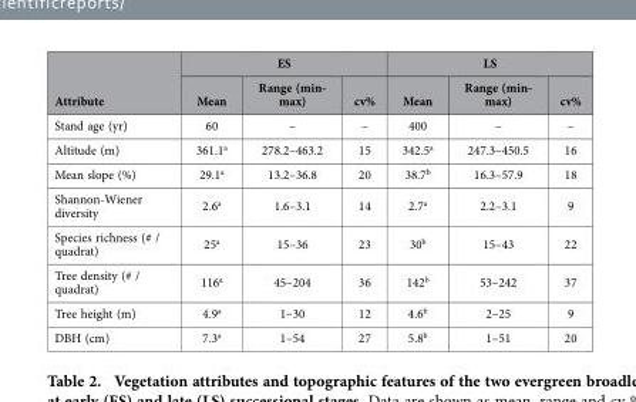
<table><thead><tr><td rowspan="2">Attribute</td><td colspan="3">ES</td><td colspan="3">LS</td></tr><tr><td>Mean</td><td>Range (min- max)</td><td>cv%</td><td>Mean</td><td>Range (min- max)</td><td>cv%</td></tr></thead><tbody><tr><td>Stand age (yr)</td><td>60</td><td>–</td><td>–</td><td>400</td><td>–</td><td>–</td></tr><tr><td>Altitude (m)</td><td>361.1<sup>a</sup></td><td>278.2–463.2</td><td>15</td><td>342.5<sup>a</sup></td><td>247.3–450.5</td><td>16</td></tr><tr><td>Mean slope (%)</td><td>29.1<sup>a</sup></td><td>13.2–36.8</td><td>20</td><td>38.7<sup>b</sup></td><td>16.3–57.9</td><td>18</td></tr><tr><td>Shannon-Wiener diversity</td><td>2.6<sup>a</sup></td><td>1.6–3.1</td><td>14</td><td>2.7<sup>a</sup></td><td>2.2–3.1</td><td>9</td></tr><tr><td>Species richness (# / quadrat)</td><td>25<sup>a</sup></td><td>15–36</td><td>23</td><td>30<sup>b</sup></td><td>15–43</td><td>22</td></tr><tr><td>Tree density (# / quadrat)</td><td>116<sup>a</sup></td><td>45–204</td><td>36</td><td>142<sup>b</sup></td><td>53–242</td><td>37</td></tr><tr><td>Tree height (m)</td><td>4.9<sup>a</sup></td><td>1–30</td><td>12</td><td>4.6<sup>b</sup></td><td>2–25</td><td>9</td></tr><tr><td>DBH (cm)</td><td>7.3<sup>a</sup></td><td>1–54</td><td>27</td><td>5.8<sup>b</sup></td><td>1–51</td><td>20</td></tr></tbody></table>